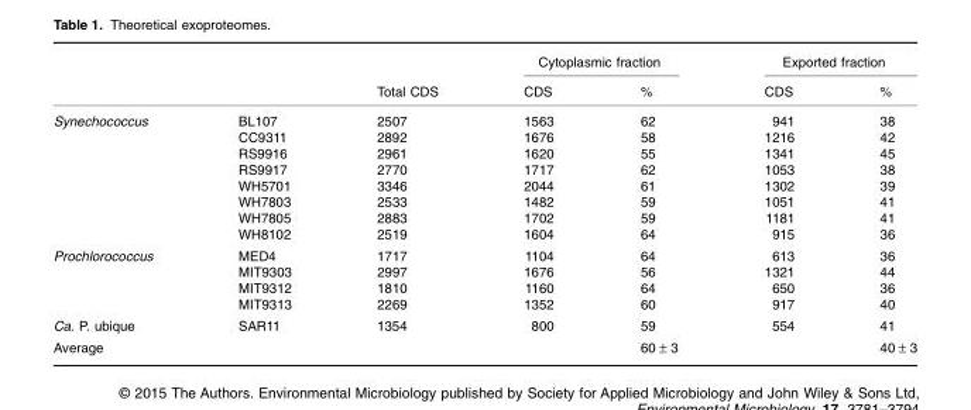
<table><thead><tr><td rowspan="2"></td><td rowspan="2"></td><td rowspan="2">Total CDS</td><td colspan="2">Cytoplasmic fraction</td><td colspan="2">Exported fraction</td></tr><tr><td>CDS</td><td>%</td><td>CDS</td><td>%</td></tr></thead><tbody><tr><td rowspan="8">Synechococcus</td><td>BL107</td><td>2507</td><td>1563</td><td>62</td><td>941</td><td>38</td></tr><tr><td>CC9311</td><td>2892</td><td>1676</td><td>58</td><td>1216</td><td>42</td></tr><tr><td>RS9916</td><td>2961</td><td>1620</td><td>55</td><td>1341</td><td>45</td></tr><tr><td>RS9917</td><td>2770</td><td>1717</td><td>62</td><td>1053</td><td>38</td></tr><tr><td>WH5701</td><td>3346</td><td>2044</td><td>61</td><td>1302</td><td>39</td></tr><tr><td>WH7803</td><td>2533</td><td>1482</td><td>59</td><td>1051</td><td>41</td></tr><tr><td>WH7805</td><td>2883</td><td>1702</td><td>59</td><td>1181</td><td>41</td></tr><tr><td>WH8102</td><td>2519</td><td>1604</td><td>64</td><td>915</td><td>36</td></tr><tr><td rowspan="4">Prochlorococcus</td><td>MED4</td><td>1717</td><td>1104</td><td>64</td><td>613</td><td>36</td></tr><tr><td>MIT9303</td><td>2997</td><td>1676</td><td>56</td><td>1321</td><td>44</td></tr><tr><td>MIT9312</td><td>1810</td><td>1160</td><td>64</td><td>650</td><td>36</td></tr><tr><td>MIT9313</td><td>2269</td><td>1352</td><td>60</td><td>917</td><td>40</td></tr><tr><td>Ca. P. ubique</td><td>SAR11</td><td>1354</td><td>800</td><td>59</td><td>554</td><td>41</td></tr><tr><td>Average</td><td></td><td></td><td></td><td>60 ± 3</td><td></td><td>40 ± 3</td></tr></tbody></table>